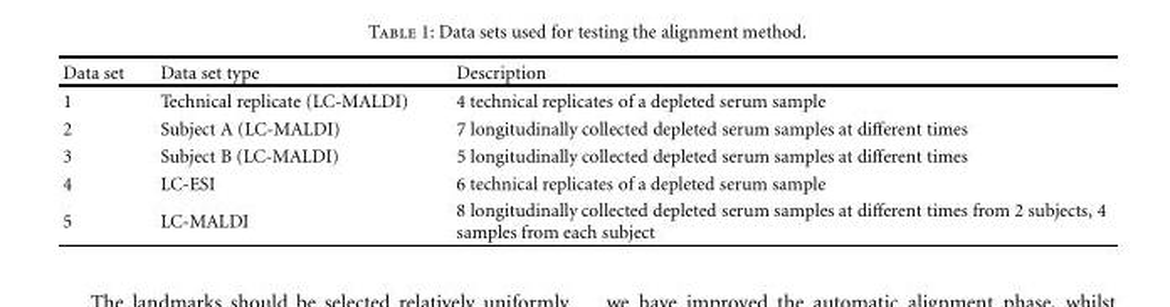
<table><thead><tr><td>Data set</td><td>Data set type</td><td>Description</td></tr></thead><tbody><tr><td>1</td><td>Technical replicate (LC-MALDI)</td><td>4 technical replicates of a depleted serum sample</td></tr><tr><td>2</td><td>Subject A (LC-MALDI)</td><td>7 longitudinally collected depleted serum samples at different times</td></tr><tr><td>3</td><td>Subject B (LC-MALDI)</td><td>5 longitudinally collected depleted serum samples at different times</td></tr><tr><td>4</td><td>LC-ESI</td><td>6 technical replicates of a depleted serum sample</td></tr><tr><td>5</td><td>LC-MALDI</td><td>8 longitudinally collected depleted serum samples at different times from 2 subjects, 4 samples from each subject</td></tr></tbody></table>